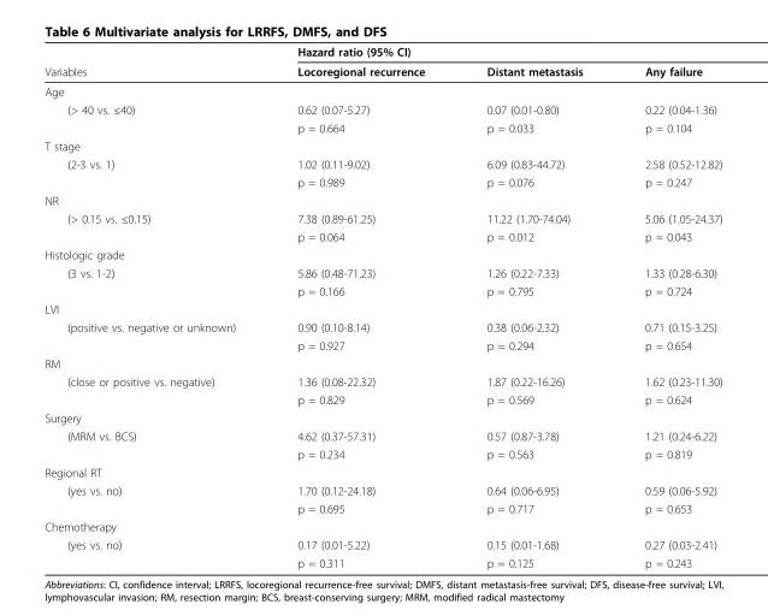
<table><thead><tr><td rowspan="2">Variables</td><td rowspan="2">Hazard ratio (95% CI) Locoregional recurrence</td><td rowspan="2">Distant metastasis</td><td rowspan="2">Any failure</td></tr><tr></tr></thead><tbody><tr><td colspan="4">Age</td></tr><tr><td rowspan="2">(&gt; 40 vs. ≤40)</td><td>0.62 (0.07-5.27)</td><td>0.07 (0.01-0.80)</td><td>0.22 (0.04-1.36)</td></tr><tr><td>p = 0.664</td><td>p = 0.033</td><td>p = 0.104</td></tr><tr><td colspan="4">T stage</td></tr><tr><td rowspan="2">(2-3 vs. 1)</td><td>1.02 (0.11-9.02)</td><td>6.09 (0.83-44.72)</td><td>2.58 (0.52-12.82)</td></tr><tr><td>p = 0.989</td><td>p = 0.076</td><td>p = 0.247</td></tr><tr><td colspan="4">NR</td></tr><tr><td rowspan="2">(&gt; 0.15 vs. ≤0.15)</td><td>7.38 (0.89-61.25)</td><td>11.22 (1.70-74.04)</td><td>5.06 (1.05-24.37)</td></tr><tr><td>p = 0.064</td><td>p = 0.012</td><td>p = 0.043</td></tr><tr><td colspan="4">Histologic grade</td></tr><tr><td rowspan="2">(3 vs. 1-2)</td><td>5.86 (0.48-71.23)</td><td>1.26 (0.22-7.33)</td><td>1.33 (0.28-6.30)</td></tr><tr><td>p = 0.166</td><td>p = 0.795</td><td>p = 0.724</td></tr><tr><td colspan="4">LVI</td></tr><tr><td rowspan="2">(positive vs. negative or unknown)</td><td>0.90 (0.10-8.14)</td><td>0.38 (0.06-2.32)</td><td>0.71 (0.15-3.25)</td></tr><tr><td>p = 0.927</td><td>p = 0.294</td><td>p = 0.654</td></tr><tr><td colspan="4">RM</td></tr><tr><td rowspan="2">(close or positive vs. negative)</td><td>1.36 (0.08-22.32)</td><td>1.87 (0.22-16.26)</td><td>1.62 (0.23-11.30)</td></tr><tr><td>p = 0.829</td><td>p = 0.569</td><td>p = 0.624</td></tr><tr><td colspan="4">Surgery</td></tr><tr><td rowspan="2">(MRM vs. BCS)</td><td>4.62 (0.37-57.31)</td><td>0.57 (0.87-3.78)</td><td>1.21 (0.24-6.22)</td></tr><tr><td>p = 0.234</td><td>p = 0.563</td><td>p = 0.819</td></tr><tr><td colspan="4">Regional RT</td></tr><tr><td rowspan="2">(yes vs. no)</td><td>1.70 (0.12-24.18)</td><td>0.64 (0.06-6.95)</td><td>0.59 (0.06-5.92)</td></tr><tr><td>p = 0.695</td><td>p = 0.717</td><td>p = 0.653</td></tr><tr><td colspan="4">Chemotherapy</td></tr><tr><td rowspan="2">(yes vs. no)</td><td>0.17 (0.01-5.22)</td><td>0.15 (0.01-1.68)</td><td>0.27 (0.03-2.41)</td></tr><tr><td>p = 0.311</td><td>p = 0.125</td><td>p = 0.243</td></tr></tbody></table>